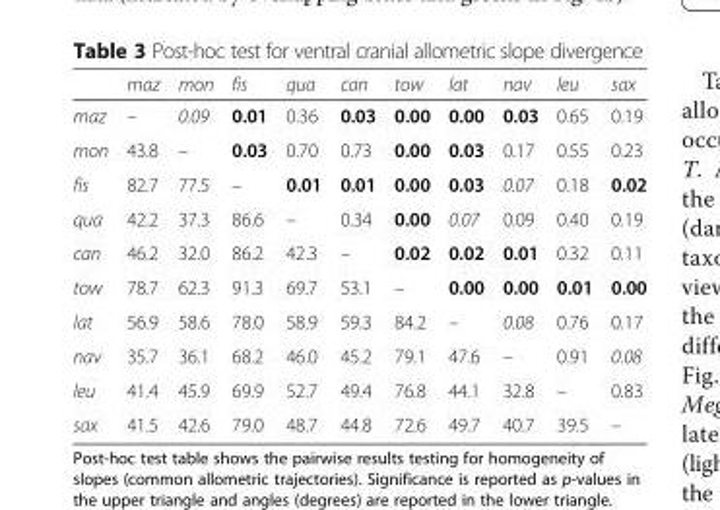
<table><thead><tr><td></td><td>maz</td><td>mon</td><td>fis</td><td>qua</td><td>can</td><td>tow</td><td>lat</td><td>nav</td><td>leu</td><td>sax</td></tr></thead><tbody><tr><td>maz</td><td>–</td><td>0.09</td><td>0.01</td><td>0.36</td><td>0.03</td><td>0.00</td><td>0.00</td><td>0.03</td><td>0.65</td><td>0.19</td></tr><tr><td>mon</td><td>43.8</td><td>–</td><td>0.03</td><td>0.70</td><td>0.73</td><td>0.00</td><td>0.03</td><td>0.17</td><td>0.55</td><td>0.23</td></tr><tr><td>fis</td><td>82.7</td><td>77.5</td><td>–</td><td>0.01</td><td>0.01</td><td>0.00</td><td>0.03</td><td>0.07</td><td>0.18</td><td>0.02</td></tr><tr><td>qua</td><td>42.2</td><td>37.3</td><td>86.6</td><td>–</td><td>0.34</td><td>0.00</td><td>0.07</td><td>0.09</td><td>0.40</td><td>0.19</td></tr><tr><td>can</td><td>46.2</td><td>32.0</td><td>86.2</td><td>42.3</td><td>–</td><td>0.02</td><td>0.02</td><td>0.01</td><td>0.32</td><td>0.11</td></tr><tr><td>tow</td><td>78.7</td><td>62.3</td><td>91.3</td><td>69.7</td><td>53.1</td><td>–</td><td>0.00</td><td>0.00</td><td>0.01</td><td>0.00</td></tr><tr><td>lat</td><td>56.9</td><td>58.6</td><td>78.0</td><td>58.9</td><td>59.3</td><td>84.2</td><td>–</td><td>0.08</td><td>0.76</td><td>0.17</td></tr><tr><td>nav</td><td>35.7</td><td>36.1</td><td>68.2</td><td>46.0</td><td>45.2</td><td>79.1</td><td>47.6</td><td>–</td><td>0.91</td><td>0.08</td></tr><tr><td>leu</td><td>41.4</td><td>45.9</td><td>69.9</td><td>52.7</td><td>49.4</td><td>76.8</td><td>44.1</td><td>32.8</td><td>–</td><td>0.83</td></tr><tr><td>sax</td><td>41.5</td><td>42.6</td><td>79.0</td><td>48.7</td><td>44.8</td><td>72.6</td><td>49.7</td><td>40.7</td><td>39.5</td><td>–</td></tr></tbody></table>